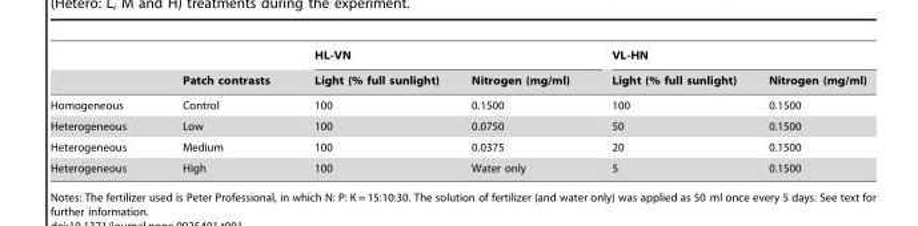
<table><thead><tr><td rowspan="2"></td><td rowspan="2">Patch contrasts</td><td colspan="2">HL-VN</td><td colspan="2">VL-HN</td></tr><tr><td>Light (% full sunlight)</td><td>Nitrogen (mg/ml)</td><td>Light (% full sunlight)</td><td>Nitrogen (mg/ml)</td></tr></thead><tbody><tr><td>Homogeneous</td><td>Control</td><td>100</td><td>0.1500</td><td>100</td><td>0.1500</td></tr><tr><td>Heterogeneous</td><td>Low</td><td>100</td><td>0.0750</td><td>50</td><td>0.1500</td></tr><tr><td>Heterogeneous</td><td>Medium</td><td>100</td><td>0.0375</td><td>20</td><td>0.1500</td></tr><tr><td>Heterogeneous</td><td>High</td><td>100</td><td>Water only</td><td>5</td><td>0.1500</td></tr></tbody></table>